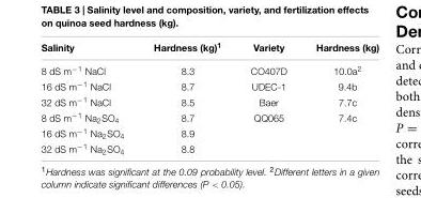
<table><thead><tr><td>Salinity</td><td>Hardness (kg)<sup>1</sup></td><td>Variety</td><td>Hardness (kg)</td></tr></thead><tbody><tr><td>8 dS m<sup>−1</sup> NaCl</td><td>8.3</td><td>CO407D</td><td>10.0a<sup>2</sup></td></tr><tr><td>16 dS m<sup>−1</sup> NaCl</td><td>8.7</td><td>UDEC-1</td><td>9.4b</td></tr><tr><td>32 dS m<sup>−1</sup> NaCl</td><td>8.5</td><td>Baer</td><td>7.7c</td></tr><tr><td>8 dS m<sup>−1</sup> Na<sub>2</sub>SO<sub>4</sub></td><td>8.7</td><td>QQ065</td><td>7.4c</td></tr><tr><td>16 dS m<sup>−1</sup> Na<sub>2</sub>SO<sub>4</sub></td><td>8.9</td><td></td><td></td></tr><tr><td>32 dS m<sup>−1</sup> Na<sub>2</sub>SO<sub>4</sub></td><td>8.8</td><td></td><td></td></tr></tbody></table>